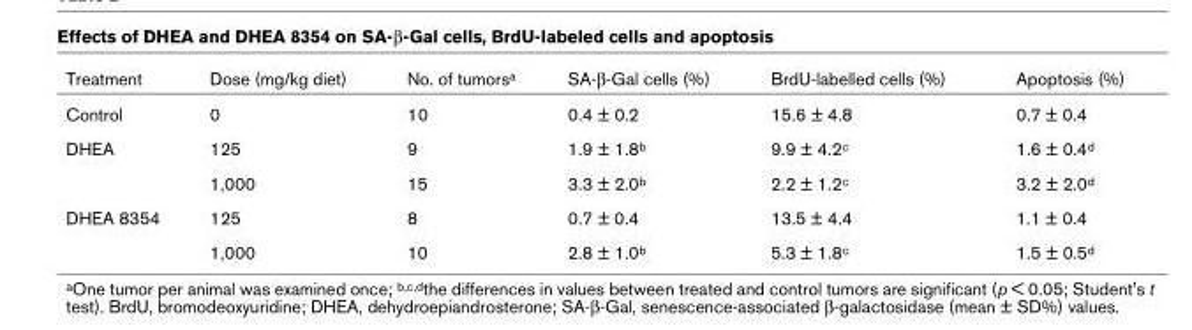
<table><thead><tr><td>Treatment</td><td>Dose (mg/kg diet)</td><td>No. of tumorsa</td><td>SA-β-Gal cells (%)</td><td>BrdU-labelled cells (%)</td><td>Apoptosis (%)</td></tr></thead><tbody><tr><td>Control</td><td>0</td><td>10</td><td>0.4 ± 0.2</td><td>15.6 ± 4.8</td><td>0.7 ± 0.4</td></tr><tr><td rowspan="2">DHEA</td><td>125</td><td>9</td><td>1.9 ± 1.8b</td><td>9.9 ± 4.2c</td><td>1.6 ± 0.4d</td></tr><tr><td>1,000</td><td>15</td><td>3.3 ± 2.0b</td><td>2.2 ± 1.2c</td><td>3.2 ± 2.0d</td></tr><tr><td rowspan="2">DHEA 8354</td><td>125</td><td>8</td><td>0.7 ± 0.4</td><td>13.5 ± 4.4</td><td>1.1 ± 0.4</td></tr><tr><td>1,000</td><td>10</td><td>2.8 ± 1.0b</td><td>5.3 ± 1.8c</td><td>1.5 ± 0.5d</td></tr></tbody></table>